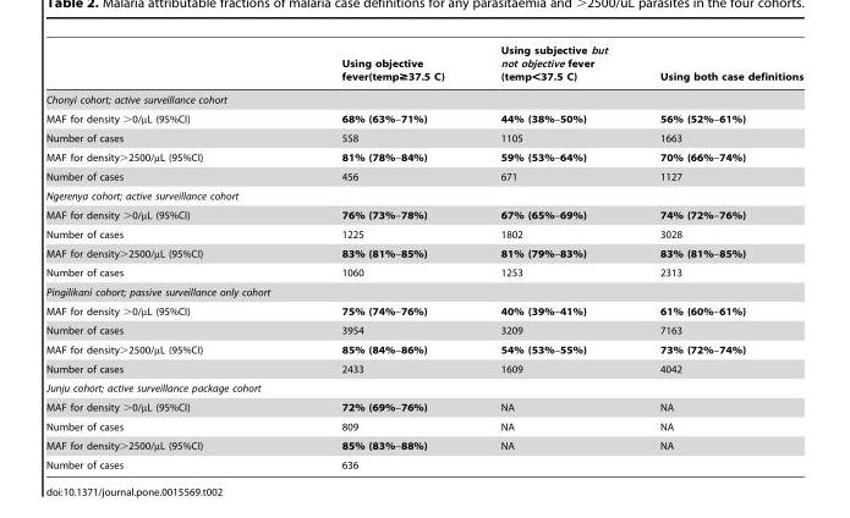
<table><thead><tr><td></td><td>Using objective fever(temp≥37.5 C)</td><td>Using subjective but not objective fever (temp&lt;37.5 C)</td><td>Using both case definitions</td></tr></thead><tbody><tr><td colspan="4">Chonyi cohort; active surveillance cohort</td></tr><tr><td>MAF for density &gt;0/µL (95%CI)</td><td>68% (63%–71%)</td><td>44% (38%–50%)</td><td>56% (52%–61%)</td></tr><tr><td>Number of cases</td><td>558</td><td>1105</td><td>1663</td></tr><tr><td>MAF for density&gt;2500/µL (95%CI)</td><td>81% (78%–84%)</td><td>59% (53%–64%)</td><td>70% (66%–74%)</td></tr><tr><td>Number of cases</td><td>456</td><td>671</td><td>1127</td></tr><tr><td colspan="4">Ngerenya cohort; active surveillance cohort</td></tr><tr><td>MAF for density &gt;0/µL (95%CI)</td><td>76% (73%–78%)</td><td>67% (65%–69%)</td><td>74% (72%–76%)</td></tr><tr><td>Number of cases</td><td>1225</td><td>1802</td><td>3028</td></tr><tr><td>MAF for density&gt;2500/µL (95%CI)</td><td>83% (81%–85%)</td><td>81% (79%–83%)</td><td>83% (81%–85%)</td></tr><tr><td>Number of cases</td><td>1060</td><td>1253</td><td>2313</td></tr><tr><td colspan="4">Pingilikani cohort; passive surveillance only cohort</td></tr><tr><td>MAF for density &gt;0/µL (95%CI)</td><td>75% (74%–76%)</td><td>40% (39%–41%)</td><td>61% (60%–61%)</td></tr><tr><td>Number of cases</td><td>3954</td><td>3209</td><td>7163</td></tr><tr><td>MAF for density&gt;2500/µL (95%CI)</td><td>85% (84%–86%)</td><td>54% (53%–55%)</td><td>73% (72%–74%)</td></tr><tr><td>Number of cases</td><td>2433</td><td>1609</td><td>4042</td></tr><tr><td colspan="4">Junju cohort; active surveillance package cohort</td></tr><tr><td>MAF for density &gt;0/µL (95%CI)</td><td>72% (69%–76%)</td><td>NA</td><td>NA</td></tr><tr><td>Number of cases</td><td>809</td><td>NA</td><td>NA</td></tr><tr><td>MAF for density&gt;2500/µL (95%CI)</td><td>85% (83%–88%)</td><td>NA</td><td>NA</td></tr><tr><td>Number of cases</td><td>636</td><td></td><td></td></tr></tbody></table>